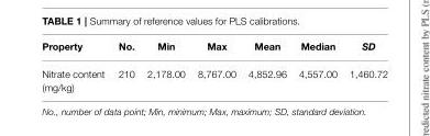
<table><thead><tr><td>Property</td><td>No.</td><td>Min</td><td>Max</td><td>Mean</td><td>Median</td><td>SD</td></tr></thead><tbody><tr><td>Nitrate content (mg/kg)</td><td>210</td><td>2,178.00</td><td>8,767.00</td><td>4,852.96</td><td>4,557.00</td><td>1,460.72</td></tr></tbody></table>